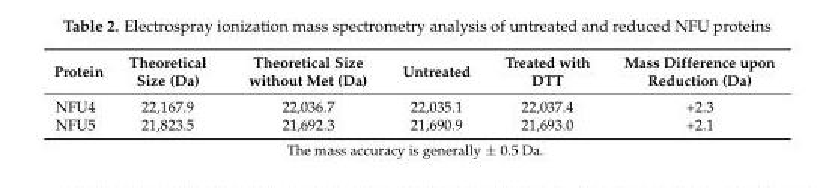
<table><thead><tr><td>Protein</td><td>Theoretical Size (Da)</td><td>Theoretical Size without Met (Da)</td><td>Untreated</td><td>Treated with DTT</td><td>Mass Difference upon Reduction (Da)</td></tr></thead><tbody><tr><td>NFU4</td><td>22,167.9</td><td>22,036.7</td><td>22,035.1</td><td>22,037.4</td><td>+2.3</td></tr><tr><td>NFU5</td><td>21,823.5</td><td>21,692.3</td><td>21,690.9</td><td>21,693.0</td><td>+2.1</td></tr></tbody></table>